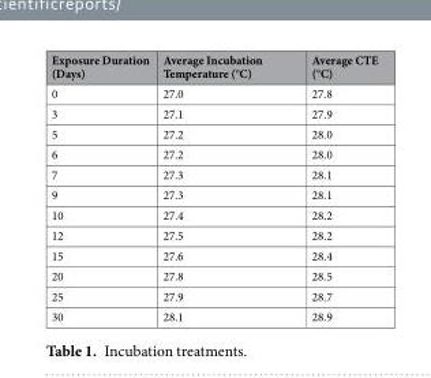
<table><thead><tr><td>Exposure Duration (Days)</td><td>Average Incubation Temperature (°C)</td><td>Average CTE (°C)</td></tr></thead><tbody><tr><td>0</td><td>27.0</td><td>27.8</td></tr><tr><td>3</td><td>27.1</td><td>27.9</td></tr><tr><td>5</td><td>27.2</td><td>28.0</td></tr><tr><td>6</td><td>27.2</td><td>28.0</td></tr><tr><td>7</td><td>27.3</td><td>28.1</td></tr><tr><td>9</td><td>27.3</td><td>28.1</td></tr><tr><td>10</td><td>27.4</td><td>28.2</td></tr><tr><td>12</td><td>27.5</td><td>28.2</td></tr><tr><td>15</td><td>27.6</td><td>28.4</td></tr><tr><td>20</td><td>27.8</td><td>28.5</td></tr><tr><td>25</td><td>27.9</td><td>28.7</td></tr><tr><td>30</td><td>28.1</td><td>28.9</td></tr></tbody></table>